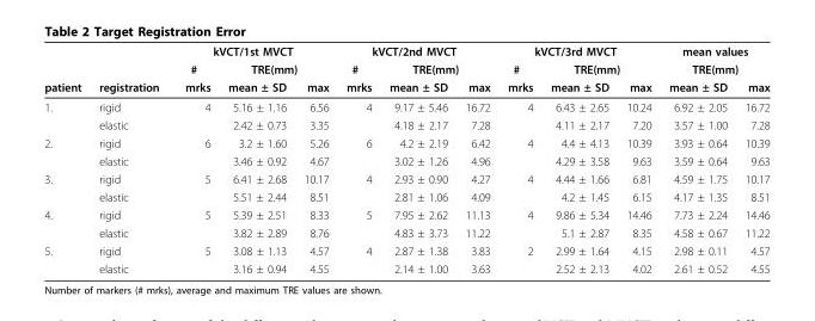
<table><thead><tr><td rowspan="3">patient</td><td rowspan="3">registration</td><td colspan="3">kVCT/1st MVCT</td><td colspan="3">kVCT/2nd MVCT</td><td colspan="3">kVCT/3rd MVCT</td><td rowspan="2" colspan="2">mean values TRE(mm)</td></tr><tr><td rowspan="2"># mrks</td><td colspan="2">TRE(mm)</td><td rowspan="2"># mrks</td><td colspan="2">TRE(mm)</td><td rowspan="2"># mrks</td><td colspan="2">TRE(mm)</td></tr><tr><td>mean ± SD</td><td>max</td><td>mean ± SD</td><td>max</td><td>mean ± SD</td><td>max</td><td>mean ± SD</td><td>max</td></tr></thead><tbody><tr><td rowspan="2">1.</td><td>rigid</td><td>4</td><td>5.16 ± 1.16</td><td>6.56</td><td>4</td><td>9.17 ± 5.46</td><td>16.72</td><td>4</td><td>6.43 ± 2.65</td><td>10.24</td><td>6.92 ± 2.05</td><td>16.72</td></tr><tr><td>elastic</td><td></td><td>2.42 ± 0.73</td><td>3.35</td><td></td><td>4.18 ± 2.17</td><td>7.28</td><td></td><td>4.11 ± 2.17</td><td>7.20</td><td>3.57 ± 1.00</td><td>7.28</td></tr><tr><td rowspan="2">2.</td><td>rigid</td><td>6</td><td>3.2 ± 1.60</td><td>5.26</td><td>6</td><td>4.2 ± 2.19</td><td>6.42</td><td>4</td><td>4.4 ± 4.13</td><td>10.39</td><td>3.93 ± 0.64</td><td>10.39</td></tr><tr><td>elastic</td><td></td><td>3.46 ± 0.92</td><td>4.67</td><td></td><td>3.02 ± 1.26</td><td>4.96</td><td></td><td>4.29 ± 3.58</td><td>9.63</td><td>3.59 ± 0.64</td><td>9.63</td></tr><tr><td rowspan="2">3.</td><td>rigid</td><td>5</td><td>6.41 ± 2.68</td><td>10.17</td><td>4</td><td>2.93 ± 0.90</td><td>4.27</td><td>4</td><td>4.44 ± 1.66</td><td>6.81</td><td>4.59 ± 1.75</td><td>10.17</td></tr><tr><td>elastic</td><td></td><td>5.51 ± 2.44</td><td>8.51</td><td></td><td>2.81 ± 1.06</td><td>4.09</td><td></td><td>4.2 ± 1.45</td><td>6.15</td><td>4.17 ± 1.35</td><td>8.51</td></tr><tr><td rowspan="2">4.</td><td>rigid</td><td>5</td><td>5.39 ± 2.51</td><td>8.33</td><td>5</td><td>7.95 ± 2.62</td><td>11.13</td><td>4</td><td>9.86 ± 5.34</td><td>14.46</td><td>7.73 ± 2.24</td><td>14.46</td></tr><tr><td>elastic</td><td></td><td>3.82 ± 2.89</td><td>8.76</td><td></td><td>4.83 ± 3.73</td><td>11.22</td><td></td><td>5.1 ± 2.87</td><td>8.35</td><td>4.58 ± 0.67</td><td>11.22</td></tr><tr><td rowspan="2">5.</td><td>rigid</td><td>5</td><td>3.08 ± 1.13</td><td>4.57</td><td>4</td><td>2.87 ± 1.38</td><td>3.83</td><td>2</td><td>2.99 ± 1.64</td><td>4.15</td><td>2.98 ± 0.11</td><td>4.57</td></tr><tr><td>elastic</td><td></td><td>3.16 ± 0.94</td><td>4.55</td><td></td><td>2.14 ± 1.00</td><td>3.63</td><td></td><td>2.52 ± 2.13</td><td>4.02</td><td>2.61 ± 0.52</td><td>4.55</td></tr></tbody></table>